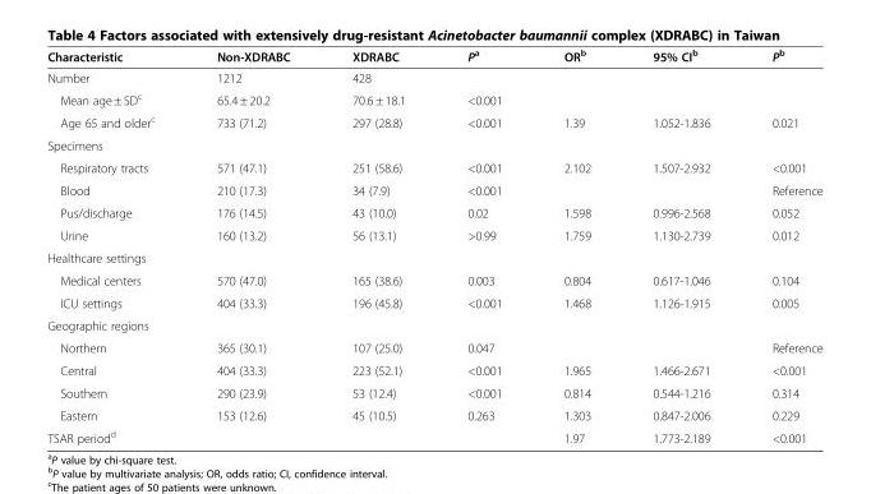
<table><thead><tr><td>Characteristic</td><td>Non-XDRABC</td><td>XDRABC</td><td>P<sup>a</sup></td><td>OR<sup>b</sup></td><td>95% CI<sup>b</sup></td><td>P<sup>b</sup></td></tr></thead><tbody><tr><td>Number</td><td>1212</td><td>428</td><td></td><td></td><td></td><td></td></tr><tr><td>Mean age ± SD<sup>c</sup></td><td>65.4 ± 20.2</td><td>70.6 ± 18.1</td><td>&lt;0.001</td><td></td><td></td><td></td></tr><tr><td>Age 65 and older<sup>c</sup></td><td>733 (71.2)</td><td>297 (28.8)</td><td>&lt;0.001</td><td>1.39</td><td>1.052-1.836</td><td>0.021</td></tr><tr><td colspan="7">Specimens</td></tr><tr><td>Respiratory tracts</td><td>571 (47.1)</td><td>251 (58.6)</td><td>&lt;0.001</td><td>2.102</td><td>1.507-2.932</td><td>&lt;0.001</td></tr><tr><td>Blood</td><td>210 (17.3)</td><td>34 (7.9)</td><td>&lt;0.001</td><td></td><td></td><td>Reference</td></tr><tr><td>Pus/discharge</td><td>176 (14.5)</td><td>43 (10.0)</td><td>0.02</td><td>1.598</td><td>0.996-2.568</td><td>0.052</td></tr><tr><td>Urine</td><td>160 (13.2)</td><td>56 (13.1)</td><td>&gt;0.99</td><td>1.759</td><td>1.130-2.739</td><td>0.012</td></tr><tr><td colspan="7">Healthcare settings</td></tr><tr><td>Medical centers</td><td>570 (47.0)</td><td>165 (38.6)</td><td>0.003</td><td>0.804</td><td>0.617-1.046</td><td>0.104</td></tr><tr><td>ICU settings</td><td>404 (33.3)</td><td>196 (45.8)</td><td>&lt;0.001</td><td>1.468</td><td>1.126-1.915</td><td>0.005</td></tr><tr><td colspan="7">Geographic regions</td></tr><tr><td>Northern</td><td>365 (30.1)</td><td>107 (25.0)</td><td>0.047</td><td></td><td></td><td>Reference</td></tr><tr><td>Central</td><td>404 (33.3)</td><td>223 (52.1)</td><td>&lt;0.001</td><td>1.965</td><td>1.466-2.671</td><td>&lt;0.001</td></tr><tr><td>Southern</td><td>290 (23.9)</td><td>53 (12.4)</td><td>&lt;0.001</td><td>0.814</td><td>0.544-1.216</td><td>0.314</td></tr><tr><td>Eastern</td><td>153 (12.6)</td><td>45 (10.5)</td><td>0.263</td><td>1.303</td><td>0.847-2.006</td><td>0.229</td></tr><tr><td>TSAR period<sup>d</sup></td><td></td><td></td><td></td><td>1.97</td><td>1.773-2.189</td><td>&lt;0.001</td></tr></tbody></table>